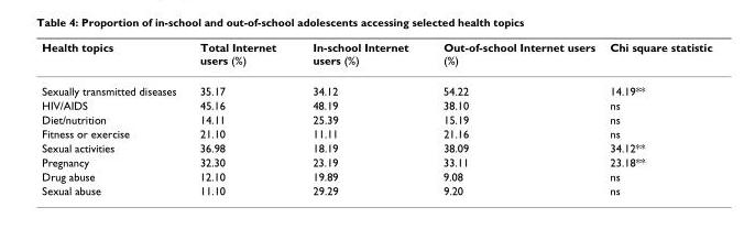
<table><thead><tr><td>Health topics</td><td>Total Internet users (%)</td><td>In-school Internet users (%)</td><td>Out-of-school Internet users (%)</td><td>Chi square statistic</td></tr></thead><tbody><tr><td>Sexually transmitted diseases</td><td>35.17</td><td>34.12</td><td>54.22</td><td>14.19**</td></tr><tr><td>HIV/AIDS</td><td>45.16</td><td>48.19</td><td>38.10</td><td>ns</td></tr><tr><td>Diet/nutrition</td><td>14.11</td><td>25.39</td><td>15.19</td><td>ns</td></tr><tr><td>Fitness or exercise</td><td>21.10</td><td>11.11</td><td>21.16</td><td>ns</td></tr><tr><td>Sexual activities</td><td>36.98</td><td>18.19</td><td>38.09</td><td>34.12**</td></tr><tr><td>Pregnancy</td><td>32.30</td><td>23.19</td><td>33.11</td><td>23.18**</td></tr><tr><td>Drug abuse</td><td>12.10</td><td>19.89</td><td>9.08</td><td>ns</td></tr><tr><td>Sexual abuse</td><td>11.10</td><td>29.29</td><td>9.20</td><td>ns</td></tr></tbody></table>